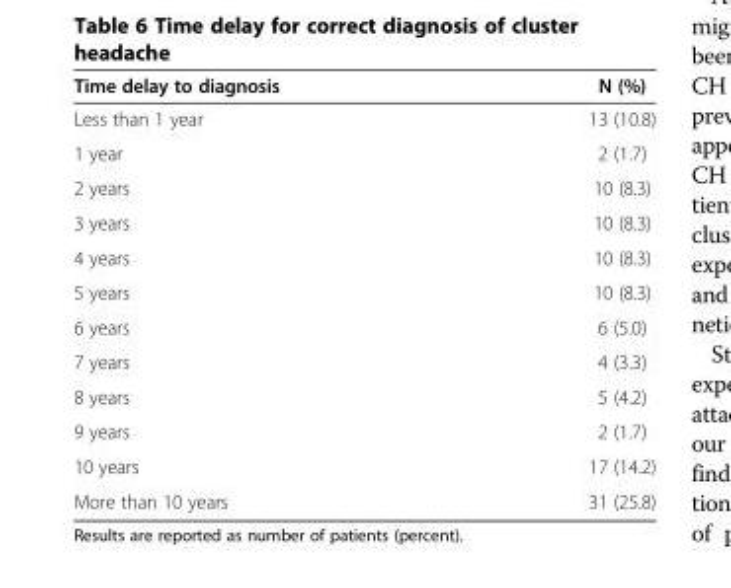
<table><thead><tr><td>Time delay to diagnosis</td><td>N (%)</td></tr></thead><tbody><tr><td>Less than 1 year</td><td>13 (10.8)</td></tr><tr><td>1 year</td><td>2 (1.7)</td></tr><tr><td>2 years</td><td>10 (8.3)</td></tr><tr><td>3 years</td><td>10 (8.3)</td></tr><tr><td>4 years</td><td>10 (8.3)</td></tr><tr><td>5 years</td><td>10 (8.3)</td></tr><tr><td>6 years</td><td>6 (5.0)</td></tr><tr><td>7 years</td><td>4 (3.3)</td></tr><tr><td>8 years</td><td>5 (4.2)</td></tr><tr><td>9 years</td><td>2 (1.7)</td></tr><tr><td>10 years</td><td>17 (14.2)</td></tr><tr><td>More than 10 years</td><td>31 (25.8)</td></tr></tbody></table>